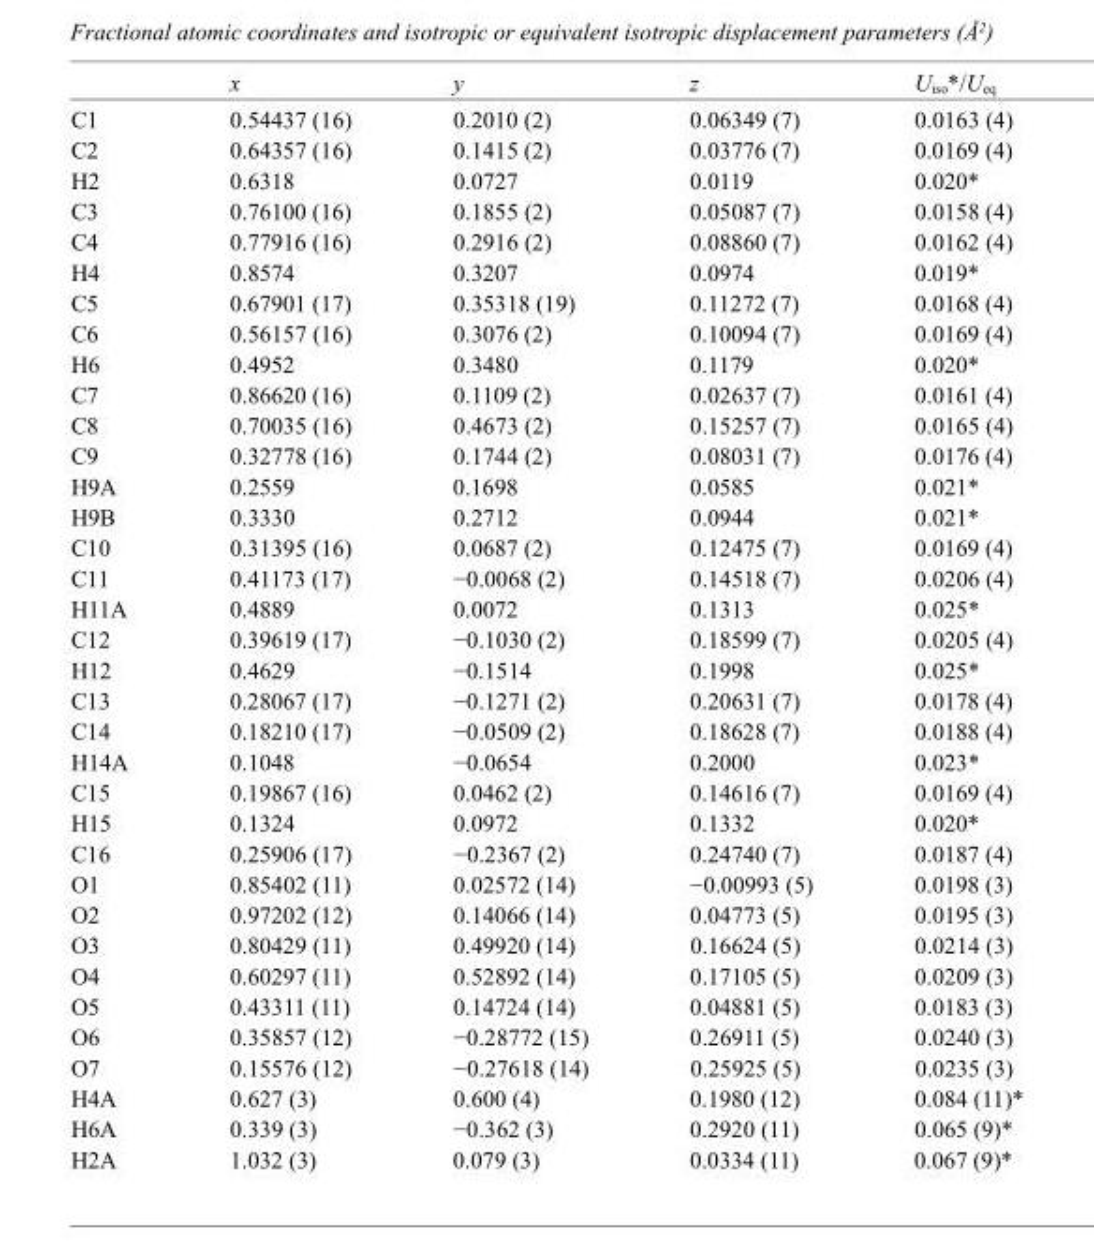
<table><thead><tr><td></td><td>x</td><td>y</td><td>z</td><td>U<sub>iso</sub>*/U<sub>eq</sub></td></tr></thead><tbody><tr><td>C1</td><td>0.54437 (16)</td><td>0.2010 (2)</td><td>0.06349 (7)</td><td>0.0163 (4)</td></tr><tr><td>C2</td><td>0.64357 (16)</td><td>0.1415 (2)</td><td>0.03776 (7)</td><td>0.0169 (4)</td></tr><tr><td>H2</td><td>0.6318</td><td>0.0727</td><td>0.0119</td><td>0.020*</td></tr><tr><td>C3</td><td>0.76100 (16)</td><td>0.1855 (2)</td><td>0.05087 (7)</td><td>0.0158 (4)</td></tr><tr><td>C4</td><td>0.77916 (16)</td><td>0.2916 (2)</td><td>0.08860 (7)</td><td>0.0162 (4)</td></tr><tr><td>H4</td><td>0.8574</td><td>0.3207</td><td>0.0974</td><td>0.019*</td></tr><tr><td>C5</td><td>0.67901 (17)</td><td>0.35318 (19)</td><td>0.11272 (7)</td><td>0.0168 (4)</td></tr><tr><td>C6</td><td>0.56157 (16)</td><td>0.3076 (2)</td><td>0.10094 (7)</td><td>0.0169 (4)</td></tr><tr><td>H6</td><td>0.4952</td><td>0.3480</td><td>0.1179</td><td>0.020*</td></tr><tr><td>C7</td><td>0.86620 (16)</td><td>0.1109 (2)</td><td>0.02637 (7)</td><td>0.0161 (4)</td></tr><tr><td>C8</td><td>0.70035 (16)</td><td>0.4673 (2)</td><td>0.15257 (7)</td><td>0.0165 (4)</td></tr><tr><td>C9</td><td>0.32778 (16)</td><td>0.1744 (2)</td><td>0.08031 (7)</td><td>0.0176 (4)</td></tr><tr><td>H9A</td><td>0.2559</td><td>0.1698</td><td>0.0585</td><td>0.021*</td></tr><tr><td>H9B</td><td>0.3330</td><td>0.2712</td><td>0.0944</td><td>0.021*</td></tr><tr><td>C10</td><td>0.31395 (16)</td><td>0.0687 (2)</td><td>0.12475 (7)</td><td>0.0169 (4)</td></tr><tr><td>C11</td><td>0.41173 (17)</td><td>−0.0068 (2)</td><td>0.14518 (7)</td><td>0.0206 (4)</td></tr><tr><td>H11A</td><td>0.4889</td><td>0.0072</td><td>0.1313</td><td>0.025*</td></tr><tr><td>C12</td><td>0.39619 (17)</td><td>−0.1030 (2)</td><td>0.18599 (7)</td><td>0.0205 (4)</td></tr><tr><td>H12</td><td>0.4629</td><td>−0.1514</td><td>0.1998</td><td>0.025*</td></tr><tr><td>C13</td><td>0.28067 (17)</td><td>−0.1271 (2)</td><td>0.20631 (7)</td><td>0.0178 (4)</td></tr><tr><td>C14</td><td>0.18210 (17)</td><td>−0.0509 (2)</td><td>0.18628 (7)</td><td>0.0188 (4)</td></tr><tr><td>H14A</td><td>0.1048</td><td>−0.0654</td><td>0.2000</td><td>0.023*</td></tr><tr><td>C15</td><td>0.19867 (16)</td><td>0.0462 (2)</td><td>0.14616 (7)</td><td>0.0169 (4)</td></tr><tr><td>H15</td><td>0.1324</td><td>0.0972</td><td>0.1332</td><td>0.020*</td></tr><tr><td>C16</td><td>0.25906 (17)</td><td>−0.2367 (2)</td><td>0.24740 (7)</td><td>0.0187 (4)</td></tr><tr><td>O1</td><td>0.85402 (11)</td><td>0.02572 (14)</td><td>−0.00993 (5)</td><td>0.0198 (3)</td></tr><tr><td>O2</td><td>0.97202 (12)</td><td>0.14066 (14)</td><td>0.04773 (5)</td><td>0.0195 (3)</td></tr><tr><td>O3</td><td>0.80429 (11)</td><td>0.49920 (14)</td><td>0.16624 (5)</td><td>0.0214 (3)</td></tr><tr><td>O4</td><td>0.60297 (11)</td><td>0.52892 (14)</td><td>0.17105 (5)</td><td>0.0209 (3)</td></tr><tr><td>O5</td><td>0.43311 (11)</td><td>0.14724 (14)</td><td>0.04881 (5)</td><td>0.0183 (3)</td></tr><tr><td>O6</td><td>0.35857 (12)</td><td>−0.28772 (15)</td><td>0.26911 (5)</td><td>0.0240 (3)</td></tr><tr><td>O7</td><td>0.15576 (12)</td><td>−0.27618 (14)</td><td>0.25925 (5)</td><td>0.0235 (3)</td></tr><tr><td>H4A</td><td>0.627 (3)</td><td>0.600 (4)</td><td>0.1980 (12)</td><td>0.084 (11)*</td></tr><tr><td>H6A</td><td>0.339 (3)</td><td>−0.362 (3)</td><td>0.2920 (11)</td><td>0.065 (9)*</td></tr><tr><td>H2A</td><td>1.032 (3)</td><td>0.079 (3)</td><td>0.0334 (11)</td><td>0.067 (9)*</td></tr></tbody></table>